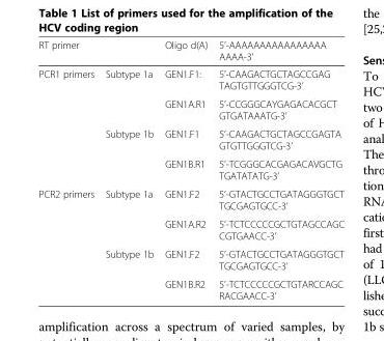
<table><thead><tr><td colspan="2">RT primer</td><td rowspan="2">Oligo d(A) GEN1.F1:</td><td rowspan="2">5’-AAAAAAAAAAAAAAAA AAAA-3’ 5’-CAAGACTGCTAGCCGAG TAGTGTTGGGTCG-3’</td></tr><tr><td>PCR1 primers</td><td>Subtype 1a</td></tr></thead><tbody><tr><td></td><td></td><td>GEN1A.R1</td><td>5’-CCGGGCAYGAGACACGCT GTGATAAATG-3’</td></tr><tr><td></td><td>Subtype 1b</td><td>GEN1.F1</td><td>5’-CAAGACTGCTAGCCGAGTA GTGTTGGGTCG-3’</td></tr><tr><td></td><td></td><td>GEN1B.R1</td><td>5’-TCGGGCACGAGACAVGCTG TGATATATG-3’</td></tr><tr><td rowspan="4">PCR2 primers</td><td>Subtype 1a</td><td>GEN1.F2</td><td>5’-GTACTGCCTGATAGGGTGCT TGCGAGTGCC-3’</td></tr><tr><td></td><td>GEN1A.R2</td><td>5’-TCTCCCCCGCTGTAGCCAGC CGTGAACC-3’</td></tr><tr><td>Subtype 1b</td><td>GEN1.F2</td><td>5’-GTACTGCCTGATAGGGTGCT TGCGAGTGCC-3’</td></tr><tr><td></td><td>GEN1B.R2</td><td>5’-TCTCCCCCGCTGTARCCAGC RACGAACC-3’</td></tr></tbody></table>